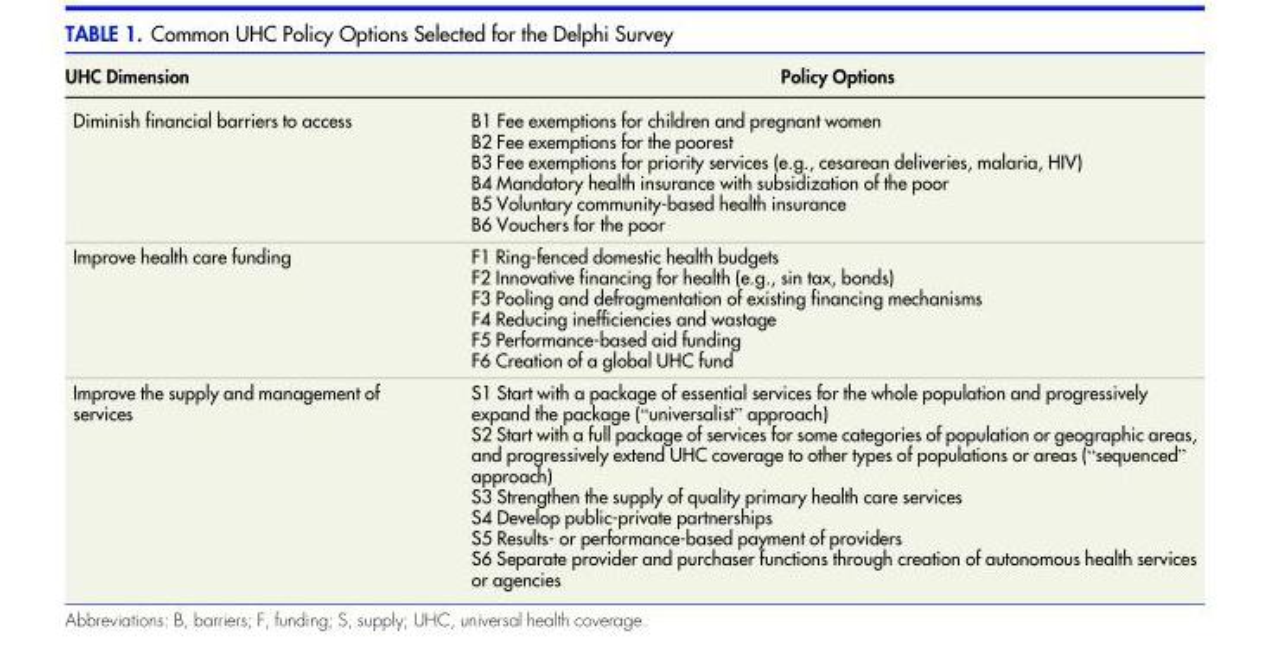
<table><thead><tr><td>UHC Dimension</td><td>Policy Options</td></tr></thead><tbody><tr><td>Diminish financial barriers to access</td><td>B1 Fee exemptions for children and pregnant women B2 Fee exemptions for the poorest B3 Fee exemptions for priority services (e.g., cesarean deliveries, malaria, HIV) B4 Mandatory health insurance with subsidization of the poor B5 Voluntary community-based health insurance B6 Vouchers for the poor</td></tr><tr><td>Improve health care funding</td><td>F1 Ring-fenced domestic health budgets F2 Innovative financing for health (e.g., sin tax, bonds) F3 Pooling and defragmentation of existing financing mechanisms F4 Reducing inefficiencies and wastage F5 Performance-based aid funding F6 Creation of a global UHC fund</td></tr><tr><td>Improve the supply and management of services</td><td>S1 Start with a package of essential services for the whole population and progressively expand the package (“universalist” approach) S2 Start with a full package of services for some categories of population or geographic areas, and progressively extend UHC coverage to other types of populations or areas (“sequenced” approach) S3 Strengthen the supply of quality primary health care services S4 Develop public-private partnerships S5 Results- or performance-based payment of providers S6 Separate provider and purchaser functions through creation of autonomous health services or agencies</td></tr></tbody></table>